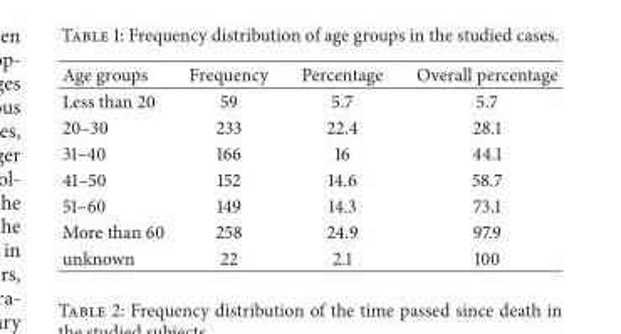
<table><thead><tr><td>Age groups</td><td>Frequency</td><td>Percentage</td><td>Overall percentage</td></tr></thead><tbody><tr><td>Less than 20</td><td>59</td><td>5.7</td><td>5.7</td></tr><tr><td>20–30</td><td>233</td><td>22.4</td><td>28.1</td></tr><tr><td>31–40</td><td>166</td><td>16</td><td>44.1</td></tr><tr><td>41–50</td><td>152</td><td>14.6</td><td>58.7</td></tr><tr><td>51–60</td><td>149</td><td>14.3</td><td>73.1</td></tr><tr><td>More than 60</td><td>258</td><td>24.9</td><td>97.9</td></tr><tr><td>unknown</td><td>22</td><td>2.1</td><td>100</td></tr></tbody></table>